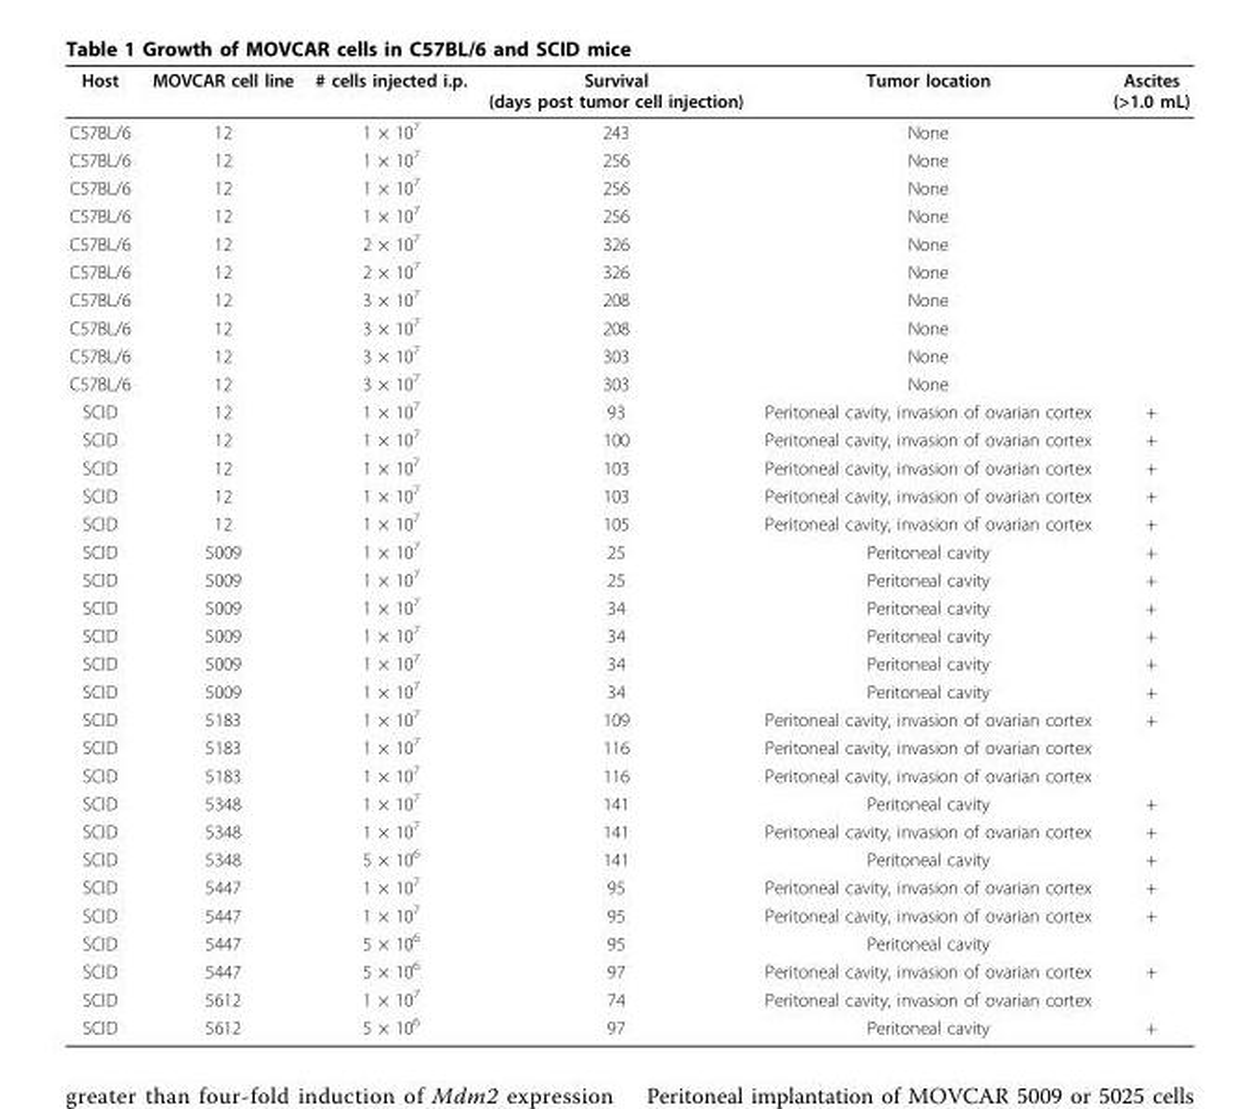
<table><thead><tr><td>Host</td><td>MOVCAR cell line</td><td># cells injected i.p.</td><td>Survival (days post tumor cell injection)</td><td>Tumor location</td><td>Ascites (&gt;1.0 mL)</td></tr></thead><tbody><tr><td>C57BL/6</td><td>12</td><td>1 × 10<sup>7</sup></td><td>243</td><td>None</td><td></td></tr><tr><td>C57BL/6</td><td>12</td><td>1 × 10<sup>7</sup></td><td>256</td><td>None</td><td></td></tr><tr><td>C57BL/6</td><td>12</td><td>1 × 10<sup>7</sup></td><td>256</td><td>None</td><td></td></tr><tr><td>C57BL/6</td><td>12</td><td>1 × 10<sup>7</sup></td><td>256</td><td>None</td><td></td></tr><tr><td>C57BL/6</td><td>12</td><td>2 × 10<sup>7</sup></td><td>326</td><td>None</td><td></td></tr><tr><td>C57BL/6</td><td>12</td><td>2 × 10<sup>7</sup></td><td>326</td><td>None</td><td></td></tr><tr><td>C57BL/6</td><td>12</td><td>3 × 10<sup>7</sup></td><td>208</td><td>None</td><td></td></tr><tr><td>C57BL/6</td><td>12</td><td>3 × 10<sup>7</sup></td><td>208</td><td>None</td><td></td></tr><tr><td>C57BL/6</td><td>12</td><td>3 × 10<sup>7</sup></td><td>303</td><td>None</td><td></td></tr><tr><td>C57BL/6</td><td>12</td><td>3 × 10<sup>7</sup></td><td>303</td><td>None</td><td></td></tr><tr><td>SCID</td><td>12</td><td>1 × 10<sup>7</sup></td><td>93</td><td>Peritoneal cavity, invasion of ovarian cortex</td><td>+</td></tr><tr><td>SCID</td><td>12</td><td>1 × 10<sup>7</sup></td><td>100</td><td>Peritoneal cavity, invasion of ovarian cortex</td><td>+</td></tr><tr><td>SCID</td><td>12</td><td>1 × 10<sup>7</sup></td><td>103</td><td>Peritoneal cavity, invasion of ovarian cortex</td><td>+</td></tr><tr><td>SCID</td><td>12</td><td>1 × 10<sup>7</sup></td><td>103</td><td>Peritoneal cavity, invasion of ovarian cortex</td><td>+</td></tr><tr><td>SCID</td><td>12</td><td>1 × 10<sup>7</sup></td><td>105</td><td>Peritoneal cavity, invasion of ovarian cortex</td><td>+</td></tr><tr><td>SCID</td><td>5009</td><td>1 × 10<sup>7</sup></td><td>25</td><td>Peritoneal cavity</td><td>+</td></tr><tr><td>SCID</td><td>5009</td><td>1 × 10<sup>7</sup></td><td>25</td><td>Peritoneal cavity</td><td>+</td></tr><tr><td>SCID</td><td>5009</td><td>1 × 10<sup>7</sup></td><td>34</td><td>Peritoneal cavity</td><td>+</td></tr><tr><td>SCID</td><td>5009</td><td>1 × 10<sup>7</sup></td><td>34</td><td>Peritoneal cavity</td><td>+</td></tr><tr><td>SCID</td><td>5009</td><td>1 × 10<sup>7</sup></td><td>34</td><td>Peritoneal cavity</td><td>+</td></tr><tr><td>SCID</td><td>5009</td><td>1 × 10<sup>7</sup></td><td>34</td><td>Peritoneal cavity</td><td>+</td></tr><tr><td>SCID</td><td>5183</td><td>1 × 10<sup>7</sup></td><td>109</td><td>Peritoneal cavity, invasion of ovarian cortex</td><td>+</td></tr><tr><td>SCID</td><td>5183</td><td>1 × 10<sup>7</sup></td><td>116</td><td>Peritoneal cavity, invasion of ovarian cortex</td><td></td></tr><tr><td>SCID</td><td>5183</td><td>1 × 10<sup>7</sup></td><td>116</td><td>Peritoneal cavity, invasion of ovarian cortex</td><td></td></tr><tr><td>SCID</td><td>5348</td><td>1 × 10<sup>7</sup></td><td>141</td><td>Peritoneal cavity</td><td>+</td></tr><tr><td>SCID</td><td>5348</td><td>1 × 10<sup>7</sup></td><td>141</td><td>Peritoneal cavity, invasion of ovarian cortex</td><td>+</td></tr><tr><td>SCID</td><td>5348</td><td>5 × 10<sup>6</sup></td><td>141</td><td>Peritoneal cavity</td><td>+</td></tr><tr><td>SCID</td><td>5447</td><td>1 × 10<sup>7</sup></td><td>95</td><td>Peritoneal cavity, invasion of ovarian cortex</td><td>+</td></tr><tr><td>SCID</td><td>5447</td><td>1 × 10<sup>7</sup></td><td>95</td><td>Peritoneal cavity, invasion of ovarian cortex</td><td>+</td></tr><tr><td>SCID</td><td>5447</td><td>5 × 10<sup>6</sup></td><td>95</td><td>Peritoneal cavity</td><td></td></tr><tr><td>SCID</td><td>5447</td><td>5 × 10<sup>6</sup></td><td>97</td><td>Peritoneal cavity, invasion of ovarian cortex</td><td>+</td></tr><tr><td>SCID</td><td>5612</td><td>1 × 10<sup>7</sup></td><td>74</td><td>Peritoneal cavity, invasion of ovarian cortex</td><td></td></tr><tr><td>SCID</td><td>5612</td><td>5 × 10<sup>6</sup></td><td>97</td><td>Peritoneal cavity</td><td>+</td></tr></tbody></table>